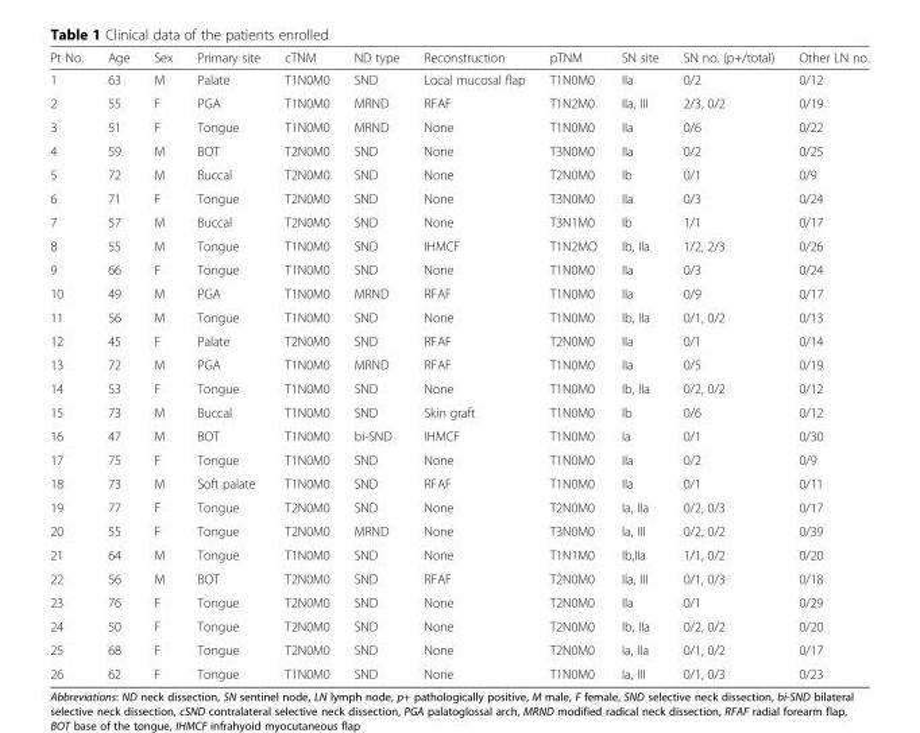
<table><thead><tr><td>Pt No.</td><td>Age</td><td>Sex</td><td>Primary site</td><td>cTNM</td><td>ND type</td><td>Reconstruction</td><td>pTNM</td><td>SN site</td><td>SN no. (p+/total)</td><td>Other LN no.</td></tr></thead><tbody><tr><td>1</td><td>63</td><td>M</td><td>Palate</td><td>T1N0M0</td><td>SND</td><td>Local mucosal flap</td><td>T1N0M0</td><td>IIa</td><td>0/2</td><td>0/12</td></tr><tr><td>2</td><td>55</td><td>F</td><td>PGA</td><td>T1N0M0</td><td>MRND</td><td>RFAF</td><td>T1N2M0</td><td>IIa, III</td><td>2/3, 0/2</td><td>0/19</td></tr><tr><td>3</td><td>51</td><td>F</td><td>Tongue</td><td>T1N0M0</td><td>MRND</td><td>None</td><td>T1N0M0</td><td>IIa</td><td>0/6</td><td>0/22</td></tr><tr><td>4</td><td>59</td><td>M</td><td>BOT</td><td>T2N0M0</td><td>SND</td><td>None</td><td>T3N0M0</td><td>IIa</td><td>0/2</td><td>0/25</td></tr><tr><td>5</td><td>72</td><td>M</td><td>Buccal</td><td>T2N0M0</td><td>SND</td><td>None</td><td>T2N0M0</td><td>Ib</td><td>0/1</td><td>0/9</td></tr><tr><td>6</td><td>71</td><td>F</td><td>Tongue</td><td>T2N0M0</td><td>SND</td><td>None</td><td>T3N0M0</td><td>IIa</td><td>0/3</td><td>0/24</td></tr><tr><td>7</td><td>57</td><td>M</td><td>Buccal</td><td>T2N0M0</td><td>SND</td><td>None</td><td>T3N1M0</td><td>Ib</td><td>1/1</td><td>0/17</td></tr><tr><td>8</td><td>55</td><td>M</td><td>Tongue</td><td>T1N0M0</td><td>SND</td><td>IHMCF</td><td>T1N2MO</td><td>Ib, IIa</td><td>1/2, 2/3</td><td>0/26</td></tr><tr><td>9</td><td>66</td><td>F</td><td>Tongue</td><td>T1N0M0</td><td>SND</td><td>None</td><td>T1N0M0</td><td>IIa</td><td>0/3</td><td>0/24</td></tr><tr><td>10</td><td>49</td><td>M</td><td>PGA</td><td>T1N0M0</td><td>MRND</td><td>RFAF</td><td>T1N0M0</td><td>IIa</td><td>0/9</td><td>0/17</td></tr><tr><td>11</td><td>56</td><td>M</td><td>Tongue</td><td>T1N0M0</td><td>SND</td><td>None</td><td>T1N0M0</td><td>Ib, IIa</td><td>0/1, 0/2</td><td>0/13</td></tr><tr><td>12</td><td>45</td><td>F</td><td>Palate</td><td>T2N0M0</td><td>SND</td><td>RFAF</td><td>T2N0M0</td><td>IIa</td><td>0/1</td><td>0/14</td></tr><tr><td>13</td><td>72</td><td>M</td><td>PGA</td><td>T1N0M0</td><td>MRND</td><td>RFAF</td><td>T1N0M0</td><td>IIa</td><td>0/5</td><td>0/19</td></tr><tr><td>14</td><td>53</td><td>F</td><td>Tongue</td><td>T1N0M0</td><td>SND</td><td>None</td><td>T1N0M0</td><td>Ib, IIa</td><td>0/2, 0/2</td><td>0/12</td></tr><tr><td>15</td><td>73</td><td>M</td><td>Buccal</td><td>T1N0M0</td><td>SND</td><td>Skin graft</td><td>T1N0M0</td><td>Ib</td><td>0/6</td><td>0/12</td></tr><tr><td>16</td><td>47</td><td>M</td><td>BOT</td><td>T1N0M0</td><td>bi-SND</td><td>IHMCF</td><td>T1N0M0</td><td>Ia</td><td>0/1</td><td>0/30</td></tr><tr><td>17</td><td>75</td><td>F</td><td>Tongue</td><td>T1N0M0</td><td>SND</td><td>None</td><td>T1N0M0</td><td>IIa</td><td>0/2</td><td>0/9</td></tr><tr><td>18</td><td>73</td><td>M</td><td>Soft palate</td><td>T1N0M0</td><td>SND</td><td>RFAF</td><td>T1N0M0</td><td>IIa</td><td>0/1</td><td>0/11</td></tr><tr><td>19</td><td>77</td><td>F</td><td>Tongue</td><td>T2N0M0</td><td>SND</td><td>None</td><td>T2N0M0</td><td>Ia, IIa</td><td>0/2, 0/3</td><td>0/17</td></tr><tr><td>20</td><td>55</td><td>F</td><td>Tongue</td><td>T2N0M0</td><td>MRND</td><td>None</td><td>T3N0M0</td><td>Ia, III</td><td>0/2, 0/2</td><td>0/39</td></tr><tr><td>21</td><td>64</td><td>M</td><td>Tongue</td><td>T1N0M0</td><td>SND</td><td>None</td><td>T1N1M0</td><td>Ib,IIa</td><td>1/1, 0/2</td><td>0/20</td></tr><tr><td>22</td><td>56</td><td>M</td><td>BOT</td><td>T2N0M0</td><td>SND</td><td>RFAF</td><td>T2N0M0</td><td>IIa, III</td><td>0/1, 0/3</td><td>0/18</td></tr><tr><td>23</td><td>76</td><td>F</td><td>Tongue</td><td>T2N0M0</td><td>SND</td><td>None</td><td>T2N0M0</td><td>IIa</td><td>0/1</td><td>0/29</td></tr><tr><td>24</td><td>50</td><td>F</td><td>Tongue</td><td>T2N0M0</td><td>SND</td><td>None</td><td>T2N0M0</td><td>Ib, IIa</td><td>0/2, 0/2</td><td>0/20</td></tr><tr><td>25</td><td>68</td><td>F</td><td>Tongue</td><td>T2N0M0</td><td>SND</td><td>None</td><td>T2N0M0</td><td>Ia, IIa</td><td>0/1, 0/2</td><td>0/17</td></tr><tr><td>26</td><td>62</td><td>F</td><td>Tongue</td><td>T1N0M0</td><td>SND</td><td>None</td><td>T1N0M0</td><td>Ia, III</td><td>0/1, 0/3</td><td>0/23</td></tr></tbody></table>